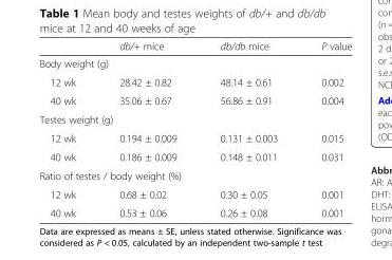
<table><thead><tr><td></td><td>db/+ mice</td><td>db/db mice</td><td>P value</td></tr></thead><tbody><tr><td colspan="4">Body weight (g)</td></tr><tr><td>12 wk</td><td>28.42 ± 0.82</td><td>48.14 ± 0.61</td><td>0.002</td></tr><tr><td>40 wk</td><td>35.06 ± 0.67</td><td>56.86 ± 0.91</td><td>0.004</td></tr><tr><td colspan="4">Testes weight (g)</td></tr><tr><td>12 wk</td><td>0.194 ± 0.009</td><td>0.131 ± 0.003</td><td>0.015</td></tr><tr><td>40 wk</td><td>0.186 ± 0.009</td><td>0.148 ± 0.011</td><td>0.031</td></tr><tr><td colspan="4">Ratio of testes / body weight (%)</td></tr><tr><td>12 wk</td><td>0.68 ± 0.02</td><td>0.30 ± 0.05</td><td>0.001</td></tr><tr><td>40 wk</td><td>0.53 ± 0.06</td><td>0.26 ± 0.08</td><td>0.001</td></tr></tbody></table>